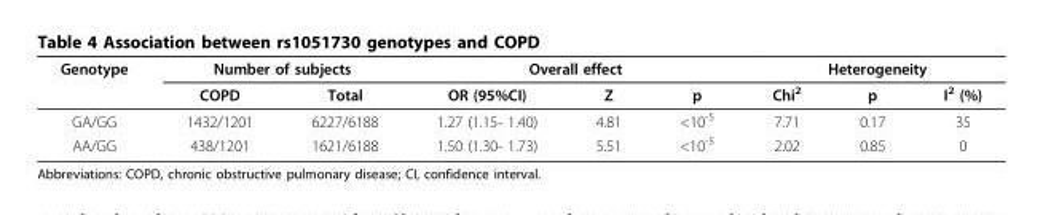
<table><thead><tr><td rowspan="2">Genotype</td><td colspan="2">Number of subjects</td><td colspan="3">Overall effect</td><td colspan="3">Heterogeneity</td></tr><tr><td>COPD</td><td>Total</td><td>OR (95%CI)</td><td>Z</td><td>p</td><td>Chi<sup>2</sup></td><td>p</td><td>I<sup>2</sup> (%)</td></tr></thead><tbody><tr><td>GA/GG</td><td>1432/1201</td><td>6227/6188</td><td>1.27 (1.15- 1.40)</td><td>4.81</td><td>&lt;10<sup>-5</sup></td><td>7.71</td><td>0.17</td><td>35</td></tr><tr><td>AA/GG</td><td>438/1201</td><td>1621/6188</td><td>1.50 (1.30- 1.73)</td><td>5.51</td><td>&lt;10<sup>-5</sup></td><td>2.02</td><td>0.85</td><td>0</td></tr></tbody></table>